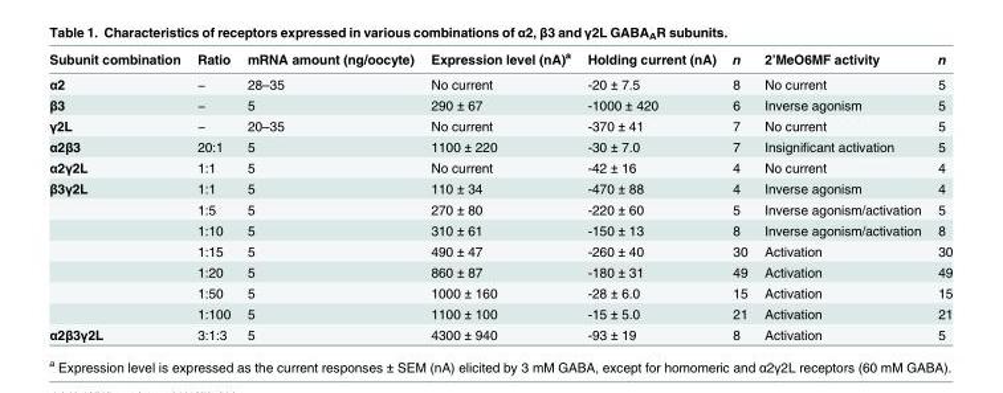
<table><thead><tr><td>Subunit combination</td><td>Ratio</td><td>mRNA amount (ng/oocyte)</td><td>Expression level (nA)<sup>a</sup></td><td>Holding current (nA)</td><td>n</td><td>2’MeO6MF activity</td><td>n</td></tr></thead><tbody><tr><td>α2</td><td>−</td><td>28–35</td><td>No current</td><td>-20 ± 7.5</td><td>8</td><td>No current</td><td>5</td></tr><tr><td>β3</td><td>−</td><td>5</td><td>290 ± 67</td><td>-1000 ± 420</td><td>6</td><td>Inverse agonism</td><td>5</td></tr><tr><td>γ2L</td><td>−</td><td>20–35</td><td>No current</td><td>-370 ± 41</td><td>7</td><td>No current</td><td>5</td></tr><tr><td>α2β3</td><td>20:1</td><td>5</td><td>1100 ± 220</td><td>-30 ± 7.0</td><td>7</td><td>Insignificant activation</td><td>5</td></tr><tr><td>α2γ2L</td><td>1:1</td><td>5</td><td>No current</td><td>-42 ± 16</td><td>4</td><td>No current</td><td>4</td></tr><tr><td rowspan="7">β3γ2L</td><td>1:1</td><td>5</td><td>110 ± 34</td><td>-470 ± 88</td><td>4</td><td>Inverse agonism</td><td>4</td></tr><tr><td>1:5</td><td>5</td><td>270 ± 80</td><td>-220 ± 60</td><td>5</td><td>Inverse agonism/activation</td><td>5</td></tr><tr><td>1:10</td><td>5</td><td>310 ± 61</td><td>-150 ± 13</td><td>8</td><td>Inverse agonism/activation</td><td>8</td></tr><tr><td>1:15</td><td>5</td><td>490 ± 47</td><td>-260 ± 40</td><td>30</td><td>Activation</td><td>30</td></tr><tr><td>1:20</td><td>5</td><td>860 ± 87</td><td>-180 ± 31</td><td>49</td><td>Activation</td><td>49</td></tr><tr><td>1:50</td><td>5</td><td>1000 ± 160</td><td>-28 ± 6.0</td><td>15</td><td>Activation</td><td>15</td></tr><tr><td>1:100</td><td>5</td><td>1100 ± 100</td><td>-15 ± 5.0</td><td>21</td><td>Activation</td><td>21</td></tr><tr><td>α2β3γ2L</td><td>3:1:3</td><td>5</td><td>4300 ± 940</td><td>-93 ± 19</td><td>8</td><td>Activation</td><td>5</td></tr></tbody></table>